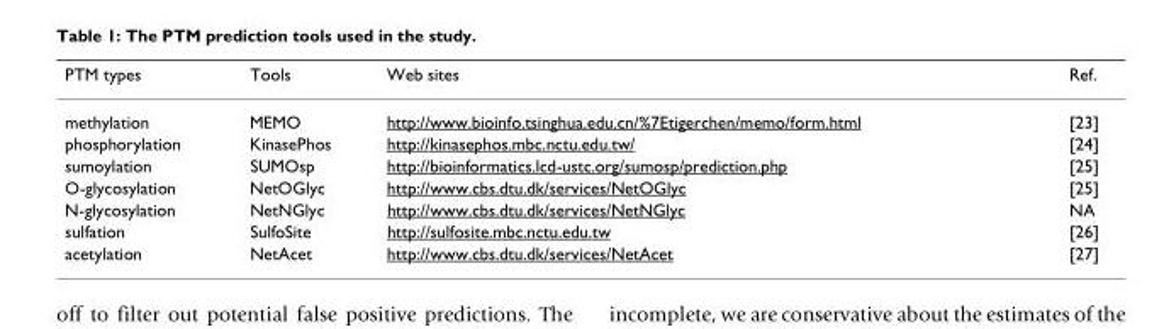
<table><thead><tr><td>PTM types</td><td>Tools</td><td>Web sites</td><td>Ref.</td></tr></thead><tbody><tr><td>methylation</td><td>MEMO</td><td>http://www.bioinfo.tsinghua.edu.cn/%7Etigerchen/memo/form.html</td><td>[23]</td></tr><tr><td>phosphorylation</td><td>KinasePhos</td><td>http://kinasephos.mbc.nctu.edu.tw/</td><td>[24]</td></tr><tr><td>sumoylation</td><td>SUMOsp</td><td>http://bioinformatics.lcd-ustc.org/sumosp/prediction.php</td><td>[25]</td></tr><tr><td>O-glycosylation</td><td>NetOGlyc</td><td>http://www.cbs.dtu.dk/services/NetOGlyc</td><td>[25]</td></tr><tr><td>N-glycosylation</td><td>NetNGlyc</td><td>http://www.cbs.dtu.dk/services/NetNGlyc</td><td>NA</td></tr><tr><td>sulfation</td><td>SulfoSite</td><td>http://sulfosite.mbc.nctu.edu.tw</td><td>[26]</td></tr><tr><td>acetylation</td><td>NetAcet</td><td>http://www.cbs.dtu.dk/services/NetAcet</td><td>[27]</td></tr></tbody></table>